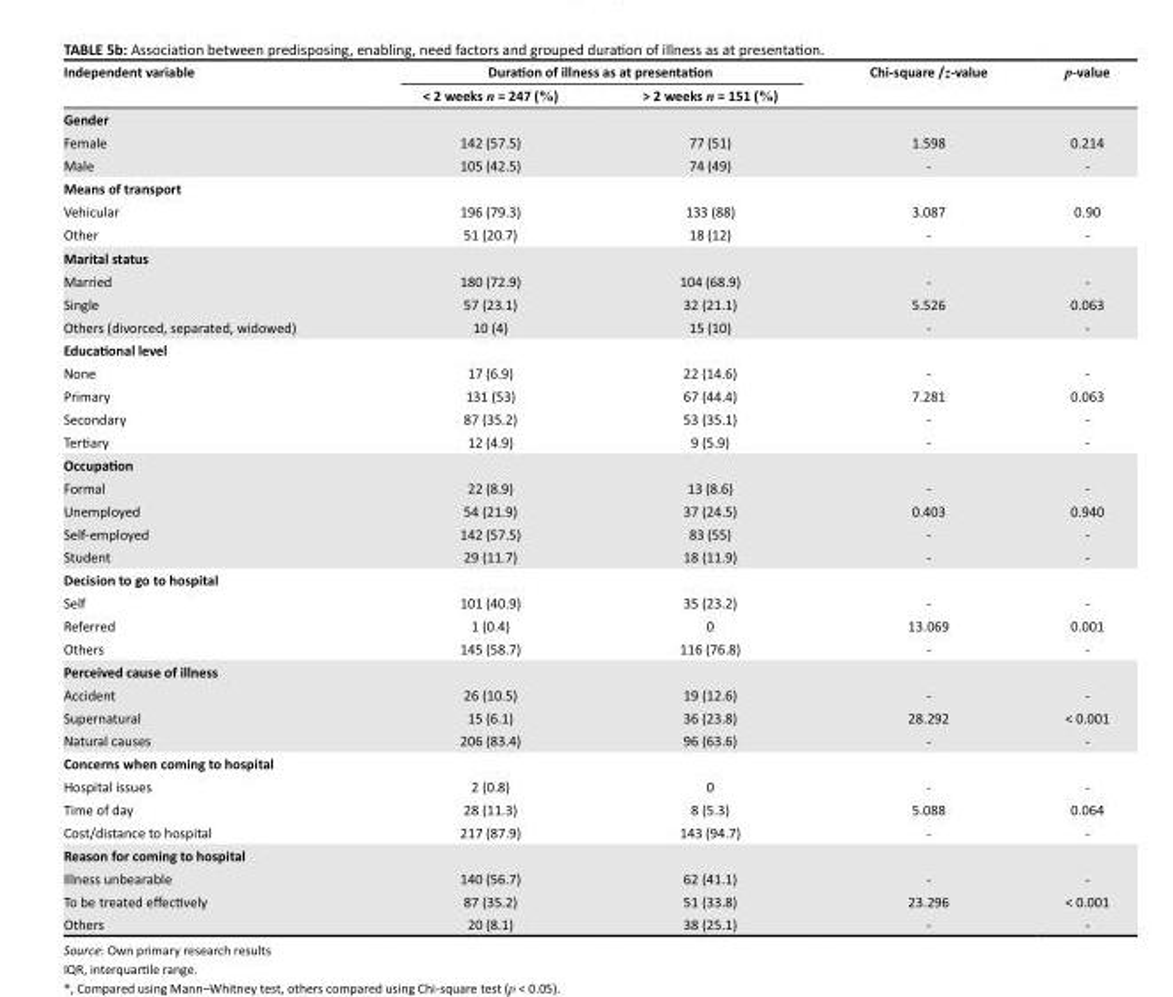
<table><thead><tr><td rowspan="2">Independent variable</td><td colspan="2">Duration of illness as at presentation</td><td rowspan="2">Chi-square /z-value</td><td rowspan="2">p-value</td></tr><tr><td>&lt; 2 weeks n = 247 (%)</td><td>&gt; 2 weeks n = 151 (%)</td></tr></thead><tbody><tr><td colspan="5">Gender</td></tr><tr><td>Female</td><td>142 (57.5)</td><td>77 (51)</td><td>1.598</td><td>0.214</td></tr><tr><td>Male</td><td>105 (42.5)</td><td>74 (49)</td><td>-</td><td>-</td></tr><tr><td colspan="5">Means of transport</td></tr><tr><td>Vehicular</td><td>196 (79.3)</td><td>133 (88)</td><td>3.087</td><td>0.90</td></tr><tr><td>Other</td><td>51 (20.7)</td><td>18 (12)</td><td>-</td><td>-</td></tr><tr><td colspan="5">Marital status</td></tr><tr><td>Married</td><td>180 (72.9)</td><td>104 (68.9)</td><td>-</td><td>-</td></tr><tr><td>Single</td><td>57 (23.1)</td><td>32 (21.1)</td><td>5.526</td><td>0.063</td></tr><tr><td>Others (divorced, separated, widowed)</td><td>10 (4)</td><td>15 (10)</td><td>-</td><td>-</td></tr><tr><td colspan="5">Educational level</td></tr><tr><td>None</td><td>17 (6.9)</td><td>22 (14.6)</td><td>-</td><td>-</td></tr><tr><td>Primary</td><td>131 (53)</td><td>67 (44.4)</td><td>7.281</td><td>0.063</td></tr><tr><td>Secondary</td><td>87 (35.2)</td><td>53 (35.1)</td><td>-</td><td>-</td></tr><tr><td>Tertiary</td><td>12 (4.9)</td><td>9 (5.9)</td><td>-</td><td>-</td></tr><tr><td colspan="5">Occupation</td></tr><tr><td>Formal</td><td>22 (8.9)</td><td>13 (8.6)</td><td>-</td><td>-</td></tr><tr><td>Unemployed</td><td>54 (21.9)</td><td>37 (24.5)</td><td>0.403</td><td>0.940</td></tr><tr><td>Self-employed</td><td>142 (57.5)</td><td>83 (55)</td><td>-</td><td>-</td></tr><tr><td>Student</td><td>29 (11.7)</td><td>18 (11.9)</td><td>-</td><td>-</td></tr><tr><td colspan="5">Decision to go to hospital</td></tr><tr><td>Self</td><td>101 (40.9)</td><td>35 (23.2)</td><td>-</td><td>-</td></tr><tr><td>Referred</td><td>1 (0.4)</td><td>0</td><td>13.069</td><td>0.001</td></tr><tr><td>Others</td><td>145 (58.7)</td><td>116 (76.8)</td><td>-</td><td>-</td></tr><tr><td colspan="5">Perceived cause of illness</td></tr><tr><td>Accident</td><td>26 (10.5)</td><td>19 (12.6)</td><td>-</td><td>-</td></tr><tr><td>Supernatural</td><td>15 (6.1)</td><td>36 (23.8)</td><td>28.292</td><td>&lt; 0.001</td></tr><tr><td>Natural causes</td><td>206 (83.4)</td><td>96 (63.6)</td><td>-</td><td>-</td></tr><tr><td colspan="5">Concerns when coming to hospital</td></tr><tr><td>Hospital issues</td><td>2 (0.8)</td><td>0</td><td>-</td><td>-</td></tr><tr><td>Time of day</td><td>28 (11.3)</td><td>8 (5.3)</td><td>5.088</td><td>0.064</td></tr><tr><td>Cost/distance to hospital</td><td>217 (87.9)</td><td>143 (94.7)</td><td>-</td><td>-</td></tr><tr><td colspan="5">Reason for coming to hospital</td></tr><tr><td>Illness unbearable</td><td>140 (56.7)</td><td>62 (41.1)</td><td>-</td><td>-</td></tr><tr><td>To be treated effectively</td><td>87 (35.2)</td><td>51 (33.8)</td><td>23.296</td><td>&lt; 0.001</td></tr><tr><td>Others</td><td>20 (8.1)</td><td>38 (25.1)</td><td>-</td><td>-</td></tr></tbody></table>